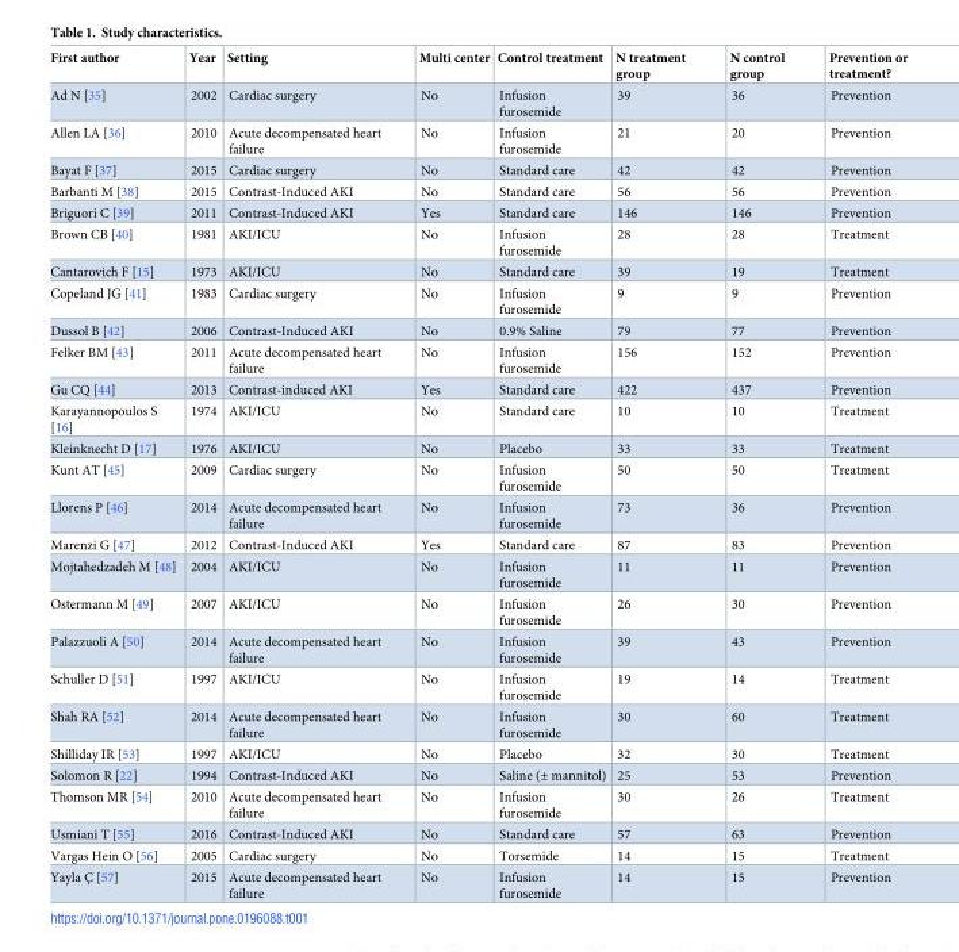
<table><thead><tr><td>First author</td><td>Year</td><td>Setting</td><td>Multi center</td><td>Control treatment</td><td>N treatment group</td><td>N control group</td><td>Prevention or treatment?</td></tr></thead><tbody><tr><td>Ad N [35]</td><td>2002</td><td>Cardiac surgery</td><td>No</td><td>Infusion furosemide</td><td>39</td><td>36</td><td>Prevention</td></tr><tr><td>Allen LA [36]</td><td>2010</td><td>Acute decompensated heart failure</td><td>No</td><td>Infusion furosemide</td><td>21</td><td>20</td><td>Prevention</td></tr><tr><td>Bayat F [37]</td><td>2015</td><td>Cardiac surgery</td><td>No</td><td>Standard care</td><td>42</td><td>42</td><td>Prevention</td></tr><tr><td>Barbanti M [38]</td><td>2015</td><td>Contrast-Induced AKI</td><td>No</td><td>Standard care</td><td>56</td><td>56</td><td>Prevention</td></tr><tr><td>Briguori C [39]</td><td>2011</td><td>Contrast-Induced AKI</td><td>Yes</td><td>Standard care</td><td>146</td><td>146</td><td>Prevention</td></tr><tr><td>Brown CB [40]</td><td>1981</td><td>AKI/ICU</td><td>No</td><td>Infusion furosemide</td><td>28</td><td>28</td><td>Treatment</td></tr><tr><td>Cantarovich F [15]</td><td>1973</td><td>AKI/ICU</td><td>No</td><td>Standard care</td><td>39</td><td>19</td><td>Treatment</td></tr><tr><td>Copeland JG [41]</td><td>1983</td><td>Cardiac surgery</td><td>No</td><td>Infusion furosemide</td><td>9</td><td>9</td><td>Prevention</td></tr><tr><td>Dussol B [42]</td><td>2006</td><td>Contrast-Induced AKI</td><td>No</td><td>0.9% Saline</td><td>79</td><td>77</td><td>Prevention</td></tr><tr><td>Felker BM [43]</td><td>2011</td><td>Acute decompensated heart failure</td><td>No</td><td>Infusion furosemide</td><td>156</td><td>152</td><td>Prevention</td></tr><tr><td>Gu CQ [44]</td><td>2013</td><td>Contrast-induced AKI</td><td>Yes</td><td>Standard care</td><td>422</td><td>437</td><td>Prevention</td></tr><tr><td>Karayannopoulos S [16]</td><td>1974</td><td>AKI/ICU</td><td>No</td><td>Standard care</td><td>10</td><td>10</td><td>Treatment</td></tr><tr><td>Kleinknecht D [17]</td><td>1976</td><td>AKI/ICU</td><td>No</td><td>Placebo</td><td>33</td><td>33</td><td>Treatment</td></tr><tr><td>Kunt AT [45]</td><td>2009</td><td>Cardiac surgery</td><td>No</td><td>Infusion furosemide</td><td>50</td><td>50</td><td>Treatment</td></tr><tr><td>Llorens P [46]</td><td>2014</td><td>Acute decompensated heart failure</td><td>No</td><td>Infusion furosemide</td><td>73</td><td>36</td><td>Prevention</td></tr><tr><td>Marenzi G [47]</td><td>2012</td><td>Contrast-Induced AKI</td><td>Yes</td><td>Standard care</td><td>87</td><td>83</td><td>Prevention</td></tr><tr><td>Mojtahedzadeh M [48]</td><td>2004</td><td>AKI/ICU</td><td>No</td><td>Infusion furosemide</td><td>11</td><td>11</td><td>Prevention</td></tr><tr><td>Ostermann M [49]</td><td>2007</td><td>AKI/ICU</td><td>No</td><td>Infusion furosemide</td><td>26</td><td>30</td><td>Prevention</td></tr><tr><td>Palazzuoli A [50]</td><td>2014</td><td>Acute decompensated heart failure</td><td>No</td><td>Infusion furosemide</td><td>39</td><td>43</td><td>Prevention</td></tr><tr><td>Schuller D [51]</td><td>1997</td><td>AKI/ICU</td><td>No</td><td>Infusion furosemide</td><td>19</td><td>14</td><td>Treatment</td></tr><tr><td>Shah RA [52]</td><td>2014</td><td>Acute decompensated heart failure</td><td>No</td><td>Infusion furosemide</td><td>30</td><td>60</td><td>Treatment</td></tr><tr><td>Shilliday IR [53]</td><td>1997</td><td>AKI/ICU</td><td>No</td><td>Placebo</td><td>32</td><td>30</td><td>Treatment</td></tr><tr><td>Solomon R [22]</td><td>1994</td><td>Contrast-Induced AKI</td><td>No</td><td>Saline (± mannitol)</td><td>25</td><td>53</td><td>Prevention</td></tr><tr><td>Thomson MR [54]</td><td>2010</td><td>Acute decompensated heart failure</td><td>No</td><td>Infusion furosemide</td><td>30</td><td>26</td><td>Treatment</td></tr><tr><td>Usmiani T [55]</td><td>2016</td><td>Contrast-Induced AKI</td><td>No</td><td>Standard care</td><td>57</td><td>63</td><td>Prevention</td></tr><tr><td>Vargas Hein O [56]</td><td>2005</td><td>Cardiac surgery</td><td>No</td><td>Torsemide</td><td>14</td><td>15</td><td>Treatment</td></tr><tr><td>Yayla C¸ [57]</td><td>2015</td><td>Acute decompensated heart failure</td><td>No</td><td>Infusion furosemide</td><td>14</td><td>15</td><td>Prevention</td></tr></tbody></table>